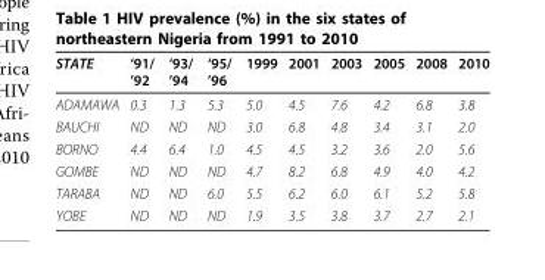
<table><thead><tr><td>STATE</td><td>‘91/ ’92</td><td>‘93/ ’94</td><td>‘95/ ’96</td><td>1999</td><td>2001</td><td>2003</td><td>2005</td><td>2008</td><td>2010</td></tr></thead><tbody><tr><td>ADAMAWA</td><td>0.3</td><td>1.3</td><td>5.3</td><td>5.0</td><td>4.5</td><td>7.6</td><td>4.2</td><td>6.8</td><td>3.8</td></tr><tr><td>BAUCHI</td><td>ND</td><td>ND</td><td>ND</td><td>3.0</td><td>6.8</td><td>4.8</td><td>3.4</td><td>3.1</td><td>2.0</td></tr><tr><td>BORNO</td><td>4.4</td><td>6.4</td><td>1.0</td><td>4.5</td><td>4.5</td><td>3.2</td><td>3.6</td><td>2.0</td><td>5.6</td></tr><tr><td>GOMBE</td><td>ND</td><td>ND</td><td>ND</td><td>4.7</td><td>8.2</td><td>6.8</td><td>4.9</td><td>4.0</td><td>4.2</td></tr><tr><td>TARABA</td><td>ND</td><td>ND</td><td>6.0</td><td>5.5</td><td>6.2</td><td>6.0</td><td>6.1</td><td>5.2</td><td>5.8</td></tr><tr><td>YOBE</td><td>ND</td><td>ND</td><td>ND</td><td>1.9</td><td>3.5</td><td>3.8</td><td>3.7</td><td>2.7</td><td>2.1</td></tr></tbody></table>